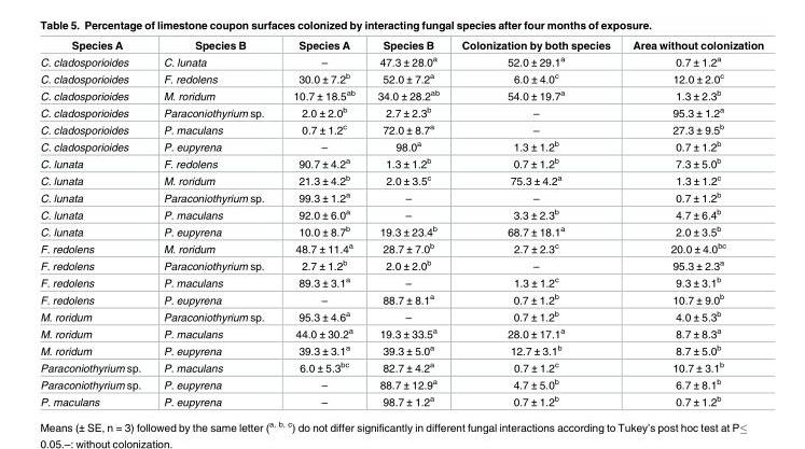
<table><thead><tr><td>Species A</td><td>Species B</td><td>Species A</td><td>Species B</td><td>Colonization by both species</td><td>Area without colonization</td></tr></thead><tbody><tr><td>C. cladosporioides</td><td>C. lunata</td><td>–</td><td>47.3 ± 28.0<sup>a</sup></td><td>52.0 ± 29.1<sup>a</sup></td><td>0.7 ± 1.2<sup>a</sup></td></tr><tr><td>C. cladosporioides</td><td>F. redolens</td><td>30.0 ± 7.2<sup>b</sup></td><td>52.0 ± 7.2<sup>a</sup></td><td>6.0 ± 4.0<sup>c</sup></td><td>12.0 ± 2.0<sup>c</sup></td></tr><tr><td>C. cladosporioides</td><td>M. roridum</td><td>10.7 ± 18.5<sup>ab</sup></td><td>34.0 ± 28.2<sup>ab</sup></td><td>54.0 ± 19.7<sup>a</sup></td><td>1.3 ± 2.3<sup>b</sup></td></tr><tr><td>C. cladosporioides</td><td>Paraconiothyrium sp.</td><td>2.0 ± 2.0<sup>b</sup></td><td>2.7 ± 2.3<sup>b</sup></td><td>–</td><td>95.3 ± 1.2<sup>a</sup></td></tr><tr><td>C. cladosporioides</td><td>P. maculans</td><td>0.7 ± 1.2<sup>c</sup></td><td>72.0 ± 8.7<sup>a</sup></td><td>–</td><td>27.3 ± 9.5<sup>b</sup></td></tr><tr><td>C. cladosporioides</td><td>P. eupyrena</td><td>–</td><td>98.0<sup>a</sup></td><td>1.3 ± 1.2<sup>b</sup></td><td>0.7 ± 1.2<sup>b</sup></td></tr><tr><td>C. lunata</td><td>F. redolens</td><td>90.7 ± 4.2<sup>a</sup></td><td>1.3 ± 1.2<sup>b</sup></td><td>0.7 ± 1.2<sup>b</sup></td><td>7.3 ± 5.0<sup>b</sup></td></tr><tr><td>C. lunata</td><td>M. roridum</td><td>21.3 ± 4.2<sup>b</sup></td><td>2.0 ± 3.5<sup>c</sup></td><td>75.3 ± 4.2<sup>a</sup></td><td>1.3 ± 1.2<sup>c</sup></td></tr><tr><td>C. lunata</td><td>Paraconiothyrium sp.</td><td>99.3 ± 1.2<sup>a</sup></td><td>–</td><td>–</td><td>0.7 ± 1.2<sup>b</sup></td></tr><tr><td>C. lunata</td><td>P. maculans</td><td>92.0 ± 6.0<sup>a</sup></td><td>–</td><td>3.3 ± 2.3<sup>b</sup></td><td>4.7 ± 6.4<sup>b</sup></td></tr><tr><td>C. lunata</td><td>P. eupyrena</td><td>10.0 ± 8.7<sup>b</sup></td><td>19.3 ± 23.4<sup>b</sup></td><td>68.7 ± 18.1<sup>a</sup></td><td>2.0 ± 3.5<sup>b</sup></td></tr><tr><td>F. redolens</td><td>M. roridum</td><td>48.7 ± 11.4<sup>a</sup></td><td>28.7 ± 7.0<sup>b</sup></td><td>2.7 ± 2.3<sup>c</sup></td><td>20.0 ± 4.0<sup>bc</sup></td></tr><tr><td>F. redolens</td><td>Paraconiothyrium sp.</td><td>2.7 ± 1.2<sup>b</sup></td><td>2.0 ± 2.0<sup>b</sup></td><td>–</td><td>95.3 ± 2.3<sup>a</sup></td></tr><tr><td>F. redolens</td><td>P. maculans</td><td>89.3 ± 3.1<sup>a</sup></td><td>–</td><td>1.3 ± 1.2<sup>c</sup></td><td>9.3 ± 3.1<sup>b</sup></td></tr><tr><td>F. redolens</td><td>P. eupyrena</td><td>–</td><td>88.7 ± 8.1<sup>a</sup></td><td>0.7 ± 1.2<sup>b</sup></td><td>10.7 ± 9.0<sup>b</sup></td></tr><tr><td>M. roridum</td><td>Paraconiothyrium sp.</td><td>95.3 ± 4.6<sup>a</sup></td><td>–</td><td>0.7 ± 1.2<sup>b</sup></td><td>4.0 ± 5.3<sup>b</sup></td></tr><tr><td>M. roridum</td><td>P. maculans</td><td>44.0 ± 30.2<sup>a</sup></td><td>19.3 ± 33.5<sup>a</sup></td><td>28.0 ± 17.1<sup>a</sup></td><td>8.7 ± 8.3<sup>a</sup></td></tr><tr><td>M. roridum</td><td>P. eupyrena</td><td>39.3 ± 3.1<sup>a</sup></td><td>39.3 ± 5.0<sup>a</sup></td><td>12.7 ± 3.1<sup>b</sup></td><td>8.7 ± 5.0<sup>b</sup></td></tr><tr><td>Paraconiothyrium sp.</td><td>P. maculans</td><td>6.0 ± 5.3<sup>bc</sup></td><td>82.7 ± 4.2<sup>a</sup></td><td>0.7 ± 1.2<sup>c</sup></td><td>10.7 ± 3.1<sup>b</sup></td></tr><tr><td>Paraconiothyrium sp.</td><td>P. eupyrena</td><td>–</td><td>88.7 ± 12.9<sup>a</sup></td><td>4.7 ± 5.0<sup>b</sup></td><td>6.7 ± 8.1<sup>b</sup></td></tr><tr><td>P. maculans</td><td>P. eupyrena</td><td>–</td><td>98.7 ± 1.2<sup>a</sup></td><td>0.7 ± 1.2<sup>b</sup></td><td>0.7 ± 1.2<sup>b</sup></td></tr></tbody></table>